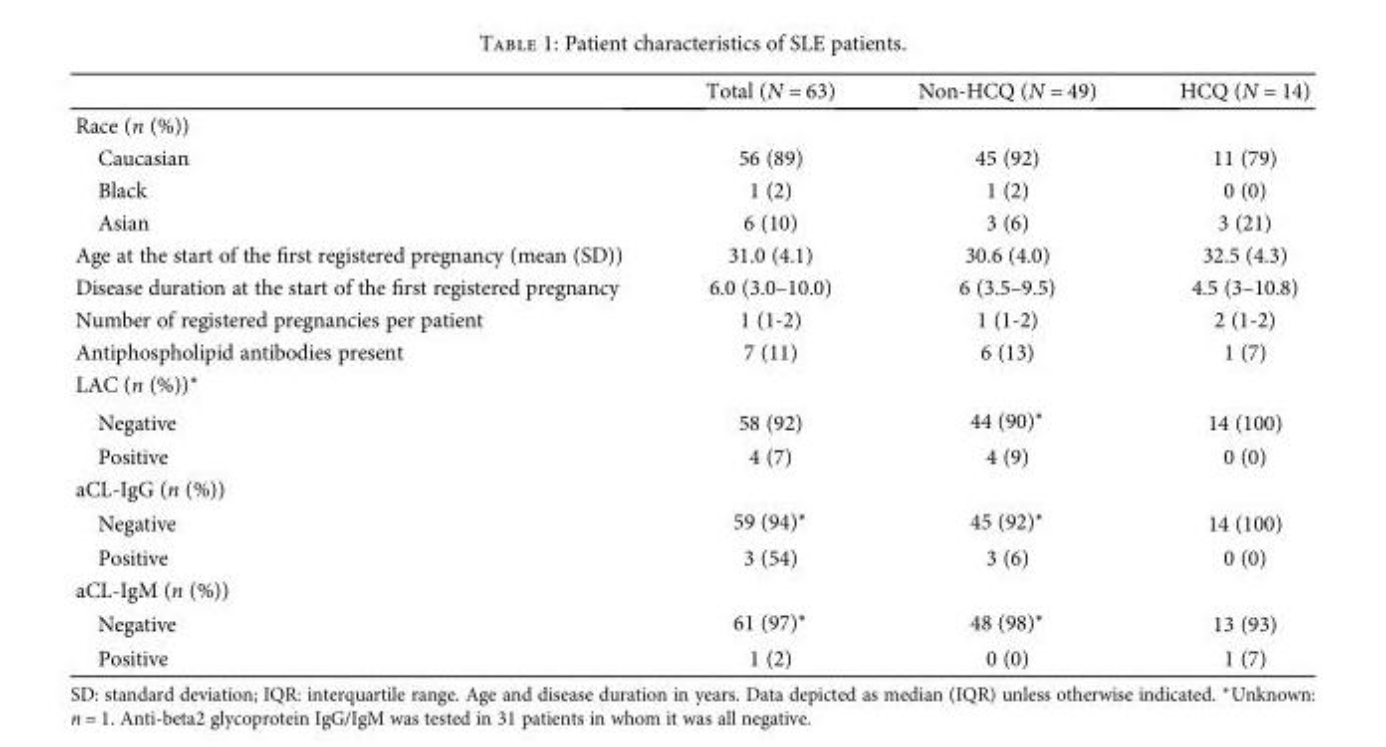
<table><thead><tr><td></td><td>Total (N = 63)</td><td>Non-HCQ (N = 49)</td><td>HCQ (N = 14)</td></tr></thead><tbody><tr><td colspan="4">Race (n (%))</td></tr><tr><td>Caucasian</td><td>56 (89)</td><td>45 (92)</td><td>11 (79)</td></tr><tr><td>Black</td><td>1 (2)</td><td>1 (2)</td><td>0 (0)</td></tr><tr><td>Asian</td><td>6 (10)</td><td>3 (6)</td><td>3 (21)</td></tr><tr><td>Age at the start of the first registered pregnancy (mean (SD))</td><td>31.0 (4.1)</td><td>30.6 (4.0)</td><td>32.5 (4.3)</td></tr><tr><td>Disease duration at the start of the first registered pregnancy</td><td>6.0 (3.0–10.0)</td><td>6 (3.5–9.5)</td><td>4.5 (3–10.8)</td></tr><tr><td>Number of registered pregnancies per patient</td><td>1 (1-2)</td><td>1 (1-2)</td><td>2 (1-2)</td></tr><tr><td>Antiphospholipid antibodies present</td><td>7 (11)</td><td>6 (13)</td><td>1 (7)</td></tr><tr><td colspan="4">LAC (n (%))∗</td></tr><tr><td>Negative</td><td>58 (92)</td><td>44 (90)∗</td><td>14 (100)</td></tr><tr><td>Positive</td><td>4 (7)</td><td>4 (9)</td><td>0 (0)</td></tr><tr><td colspan="4">aCL-IgG (n (%))</td></tr><tr><td>Negative</td><td>59 (94)∗</td><td>45 (92)∗</td><td>14 (100)</td></tr><tr><td>Positive</td><td>3 (54)</td><td>3 (6)</td><td>0 (0)</td></tr><tr><td colspan="4">aCL-IgM (n (%))</td></tr><tr><td>Negative</td><td>61 (97)∗</td><td>48 (98)∗</td><td>13 (93)</td></tr><tr><td>Positive</td><td>1 (2)</td><td>0 (0)</td><td>1 (7)</td></tr></tbody></table>